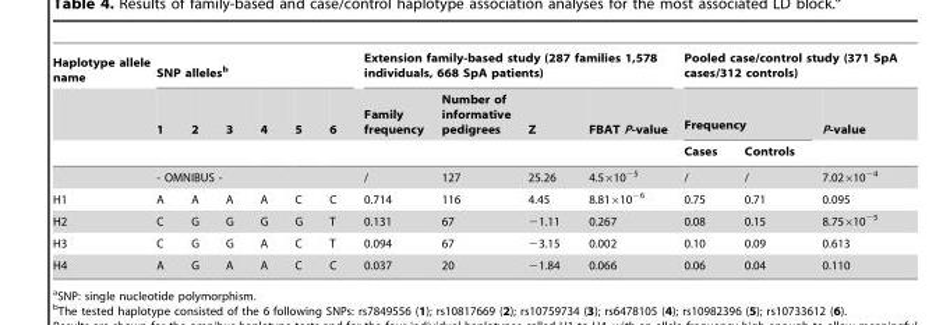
<table><thead><tr><td rowspan="3">Haplotype allele name</td><td colspan="6">SNP alleles<sup>b</sup></td><td colspan="4">Extension family-based study (287 families 1,578 individuals, 668 SpA patients)</td><td colspan="3">Pooled case/control study (371 SpA cases/312 controls)</td></tr><tr><td rowspan="2">1</td><td rowspan="2">2</td><td rowspan="2">3</td><td rowspan="2">4</td><td rowspan="2">5</td><td rowspan="2">6</td><td rowspan="2">Family frequency</td><td rowspan="2">Number of informative pedigrees</td><td rowspan="2">Z</td><td rowspan="2">FBAT P-value</td><td colspan="2">Frequency</td><td rowspan="2">P-value</td></tr><tr><td>Cases</td><td>Controls</td></tr></thead><tbody><tr><td></td><td colspan="6">- OMNIBUS -</td><td>/</td><td>127</td><td>25.26</td><td>4.5×10<sup>−5</sup></td><td>/</td><td>/</td><td>7.02×10<sup>−4</sup></td></tr><tr><td>H1</td><td>A</td><td>A</td><td>A</td><td>A</td><td>C</td><td>C</td><td>0.714</td><td>116</td><td>4.45</td><td>8.81×10<sup>−6</sup></td><td>0.75</td><td>0.71</td><td>0.095</td></tr><tr><td>H2</td><td>C</td><td>G</td><td>G</td><td>G</td><td>G</td><td>T</td><td>0.131</td><td>67</td><td>−1.11</td><td>0.267</td><td>0.08</td><td>0.15</td><td>8.75×10<sup>−5</sup></td></tr><tr><td>H3</td><td>C</td><td>G</td><td>G</td><td>A</td><td>C</td><td>T</td><td>0.094</td><td>67</td><td>−3.15</td><td>0.002</td><td>0.10</td><td>0.09</td><td>0.613</td></tr><tr><td>H4</td><td>A</td><td>G</td><td>A</td><td>A</td><td>C</td><td>C</td><td>0.037</td><td>20</td><td>−1.84</td><td>0.066</td><td>0.06</td><td>0.04</td><td>0.110</td></tr></tbody></table>